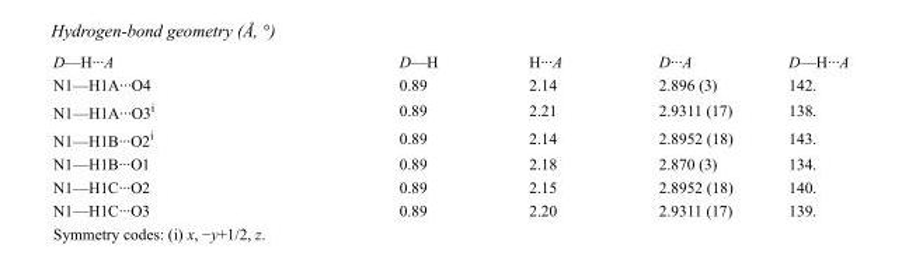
<table><tbody><tr><td>D—H···A</td><td>D—H</td><td>H···A</td><td>D···A</td><td>D—H···A</td></tr><tr><td>N1—H1A···O4</td><td>0.89</td><td>2.14</td><td>2.896 (3)</td><td>142.</td></tr><tr><td>N1—H1A···O3<sup>i</sup></td><td>0.89</td><td>2.21</td><td>2.9311 (17)</td><td>138.</td></tr><tr><td>N1—H1B···O2<sup>i</sup></td><td>0.89</td><td>2.14</td><td>2.8952 (18)</td><td>143.</td></tr><tr><td>N1—H1B···O1</td><td>0.89</td><td>2.18</td><td>2.870 (3)</td><td>134.</td></tr><tr><td>N1—H1C···O2</td><td>0.89</td><td>2.15</td><td>2.8952 (18)</td><td>140.</td></tr><tr><td>N1—H1C···O3</td><td>0.89</td><td>2.20</td><td>2.9311 (17)</td><td>139.</td></tr></tbody></table>